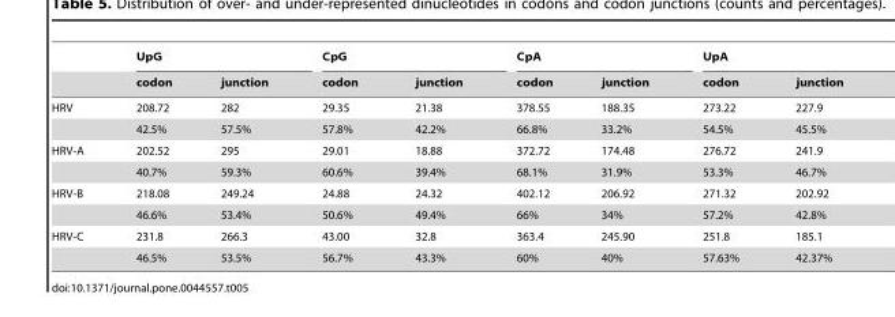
<table><thead><tr><td rowspan="2"></td><td colspan="2">UpG</td><td colspan="2">CpG</td><td colspan="2">CpA</td><td colspan="2">UpA</td></tr><tr><td>codon</td><td>junction</td><td>codon</td><td>junction</td><td>codon</td><td>junction</td><td>codon</td><td>junction</td></tr></thead><tbody><tr><td rowspan="2">HRV</td><td>208.72</td><td>282</td><td>29.35</td><td>21.38</td><td>378.55</td><td>188.35</td><td>273.22</td><td>227.9</td></tr><tr><td>42.5%</td><td>57.5%</td><td>57.8%</td><td>42.2%</td><td>66.8%</td><td>33.2%</td><td>54.5%</td><td>45.5%</td></tr><tr><td rowspan="2">HRV-A</td><td>202.52</td><td>295</td><td>29.01</td><td>18.88</td><td>372.72</td><td>174.48</td><td>276.72</td><td>241.9</td></tr><tr><td>40.7%</td><td>59.3%</td><td>60.6%</td><td>39.4%</td><td>68.1%</td><td>31.9%</td><td>53.3%</td><td>46.7%</td></tr><tr><td rowspan="2">HRV-B</td><td>218.08</td><td>249.24</td><td>24.88</td><td>24.32</td><td>402.12</td><td>206.92</td><td>271.32</td><td>202.92</td></tr><tr><td>46.6%</td><td>53.4%</td><td>50.6%</td><td>49.4%</td><td>66%</td><td>34%</td><td>57.2%</td><td>42.8%</td></tr><tr><td rowspan="2">HRV-C</td><td>231.8</td><td>266.3</td><td>43.00</td><td>32.8</td><td>363.4</td><td>245.90</td><td>251.8</td><td>185.1</td></tr><tr><td>46.5%</td><td>53.5%</td><td>56.7%</td><td>43.3%</td><td>60%</td><td>40%</td><td>57.63%</td><td>42.37%</td></tr></tbody></table>